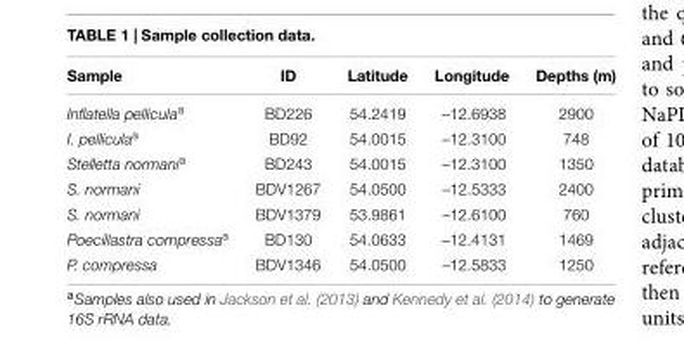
<table><thead><tr><td>Sample</td><td>ID</td><td>Latitude</td><td>Longitude</td><td>Depths (m)</td></tr></thead><tbody><tr><td>Inflatella pellicula<sup>a</sup></td><td>BD226</td><td>54.2419</td><td>–12.6938</td><td>2900</td></tr><tr><td>I. pellicula<sup>a</sup></td><td>BD92</td><td>54.0015</td><td>–12.3100</td><td>748</td></tr><tr><td>Stelletta normani<sup>a</sup></td><td>BD243</td><td>54.0015</td><td>–12.3100</td><td>1350</td></tr><tr><td>S. normani</td><td>BDV1267</td><td>54.0500</td><td>–12.5333</td><td>2400</td></tr><tr><td>S. normani</td><td>BDV1379</td><td>53.9861</td><td>–12.6100</td><td>760</td></tr><tr><td>Poecillastra compressa<sup>a</sup></td><td>BD130</td><td>54.0633</td><td>–12.4131</td><td>1469</td></tr><tr><td>P. compressa</td><td>BDV1346</td><td>54.0500</td><td>–12.5833</td><td>1250</td></tr></tbody></table>